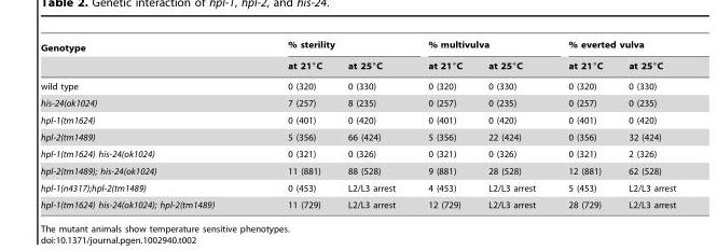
<table><thead><tr><td rowspan="2">Genotype</td><td colspan="2">% sterility</td><td colspan="2">% multivulva</td><td colspan="2">% everted vulva</td></tr><tr><td>at 21°C</td><td>at 25°C</td><td>at 21°C</td><td>at 25°C</td><td>at 21°C</td><td>at 25°C</td></tr></thead><tbody><tr><td>wild type</td><td>0 (320)</td><td>0 (330)</td><td>0 (320)</td><td>0 (330)</td><td>0 (320)</td><td>0 (330)</td></tr><tr><td>his-24(ok1024)</td><td>7 (257)</td><td>8 (235)</td><td>0 (257)</td><td>0 (235)</td><td>0 (257)</td><td>0 (235)</td></tr><tr><td>hpl-1(tm1624)</td><td>0 (401)</td><td>0 (420)</td><td>0 (401)</td><td>0 (420)</td><td>0 (401)</td><td>0 (420)</td></tr><tr><td>hpl-2(tm1489)</td><td>5 (356)</td><td>66 (424)</td><td>5 (356)</td><td>22 (424)</td><td>0 (356)</td><td>32 (424)</td></tr><tr><td>hpl-1(tm1624) his-24(ok1024)</td><td>0 (321)</td><td>0 (326)</td><td>0 (321)</td><td>0 (326)</td><td>0 (321)</td><td>2 (326)</td></tr><tr><td>hpl-2(tm1489); his-24(ok1024)</td><td>11 (881)</td><td>88 (528)</td><td>9 (881)</td><td>28 (528)</td><td>12 (881)</td><td>62 (528)</td></tr><tr><td>hpl-1(n4317);hpl-2(tm1489)</td><td>0 (453)</td><td>L2/L3 arrest</td><td>4 (453)</td><td>L2/L3 arrest</td><td>5 (453)</td><td>L2/L3 arrest</td></tr><tr><td>hpl-1(tm1624) his-24(ok1024); hpl-2(tm1489)</td><td>11 (729)</td><td>L2/L3 arrest</td><td>12 (729)</td><td>L2/L3 arrest</td><td>28 (729)</td><td>L2/L3 arrest</td></tr></tbody></table>